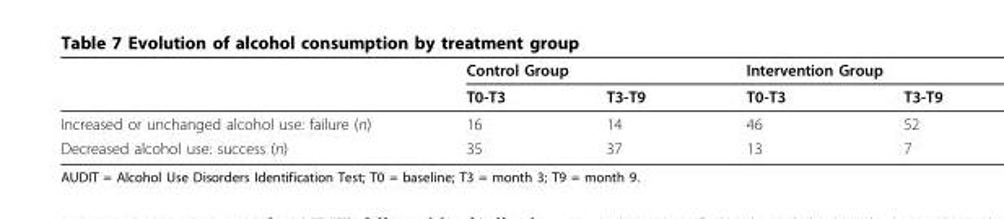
<table><thead><tr><td rowspan="2"></td><td colspan="2">Control Group</td><td colspan="2">Intervention Group</td></tr><tr><td>T0-T3</td><td>T3-T9</td><td>T0-T3</td><td>T3-T9</td></tr></thead><tbody><tr><td>Increased or unchanged alcohol use: failure (n)</td><td>16</td><td>14</td><td>46</td><td>52</td></tr><tr><td>Decreased alcohol use: success (n)</td><td>35</td><td>37</td><td>13</td><td>7</td></tr></tbody></table>